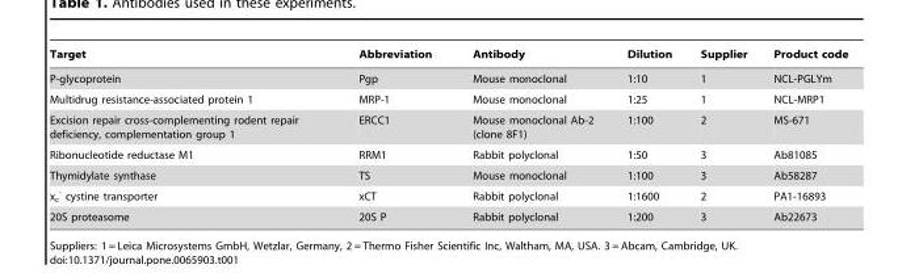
<table><thead><tr><td>Target</td><td>Abbreviation</td><td>Antibody</td><td>Dilution</td><td>Supplier</td><td>Product code</td></tr></thead><tbody><tr><td>P-glycoprotein</td><td>Pgp</td><td>Mouse monoclonal</td><td>1:10</td><td>1</td><td>NCL-PGLYm</td></tr><tr><td>Multidrug resistance-associated protein 1</td><td>MRP-1</td><td>Mouse monoclonal</td><td>1:25</td><td>1</td><td>NCL-MRP1</td></tr><tr><td>Excision repair cross-complementing rodent repair deficiency, complementation group 1</td><td>ERCC1</td><td>Mouse monoclonal Ab-2 (clone 8F1)</td><td>1:100</td><td>2</td><td>MS-671</td></tr><tr><td>Ribonucleotide reductase M1</td><td>RRM1</td><td>Rabbit polyclonal</td><td>1:50</td><td>3</td><td>Ab81085</td></tr><tr><td>Thymidylate synthase</td><td>TS</td><td>Mouse monoclonal</td><td>1:100</td><td>3</td><td>Ab58287</td></tr><tr><td>x<sub>c</sub> <sup>-</sup> cystine transporter</td><td>xCT</td><td>Rabbit polyclonal</td><td>1:1600</td><td>2</td><td>PA1-16893</td></tr><tr><td>20S proteasome</td><td>20S P</td><td>Rabbit polyclonal</td><td>1:200</td><td>3</td><td>Ab22673</td></tr></tbody></table>